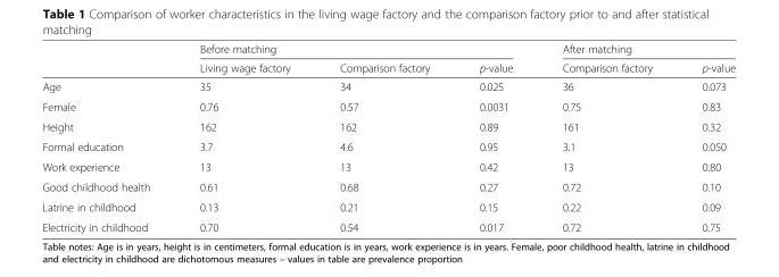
<table><thead><tr><td rowspan="2"></td><td colspan="3">Before matching</td><td colspan="2">After matching</td></tr><tr><td>Living wage factory</td><td>Comparison factory</td><td>p-value</td><td>Comparison factory</td><td>p-value</td></tr></thead><tbody><tr><td>Age</td><td>35</td><td>34</td><td>0.025</td><td>36</td><td>0.073</td></tr><tr><td>Female</td><td>0.76</td><td>0.57</td><td>0.0031</td><td>0.75</td><td>0.83</td></tr><tr><td>Height</td><td>162</td><td>162</td><td>0.89</td><td>161</td><td>0.32</td></tr><tr><td>Formal education</td><td>3.7</td><td>4.6</td><td>0.95</td><td>3.1</td><td>0.050</td></tr><tr><td>Work experience</td><td>13</td><td>13</td><td>0.42</td><td>13</td><td>0.80</td></tr><tr><td>Good childhood health</td><td>0.61</td><td>0.68</td><td>0.27</td><td>0.72</td><td>0.10</td></tr><tr><td>Latrine in childhood</td><td>0.13</td><td>0.21</td><td>0.15</td><td>0.22</td><td>0.09</td></tr><tr><td>Electricity in childhood</td><td>0.70</td><td>0.54</td><td>0.017</td><td>0.72</td><td>0.75</td></tr></tbody></table>